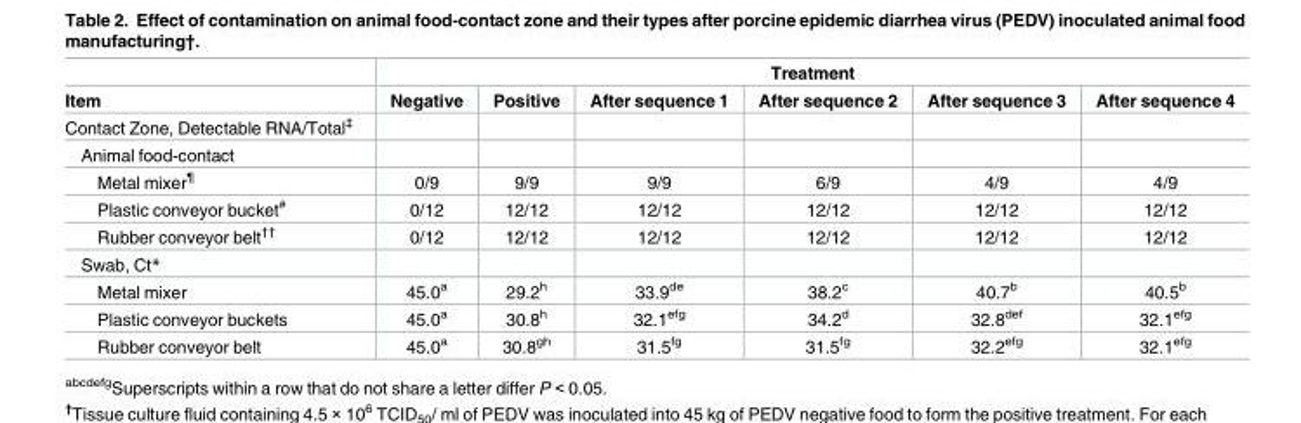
<table><thead><tr><td rowspan="2">Item</td><td colspan="6">Treatment</td></tr><tr><td>Negative</td><td>Positive</td><td>After sequence 1</td><td>After sequence 2</td><td>After sequence 3</td><td>After sequence 4</td></tr></thead><tbody><tr><td colspan="7">Contact Zone, Detectable RNA/Total<sup>‡</sup></td></tr><tr><td colspan="7">Animal food-contact</td></tr><tr><td>Metal mixer<sup>¶</sup></td><td>0/9</td><td>9/9</td><td>9/9</td><td>6/9</td><td>4/9</td><td>4/9</td></tr><tr><td>Plastic conveyor bucket<sup>#</sup></td><td>0/12</td><td>12/12</td><td>12/12</td><td>12/12</td><td>12/12</td><td>12/12</td></tr><tr><td>Rubber conveyor belt<sup>††</sup></td><td>0/12</td><td>12/12</td><td>12/12</td><td>12/12</td><td>12/12</td><td>12/12</td></tr><tr><td colspan="7">Swab, Ct*</td></tr><tr><td>Metal mixer</td><td>45.0<sup>a</sup></td><td>29.2<sup>h</sup></td><td>33.9<sup>de</sup></td><td>38.2<sup>c</sup></td><td>40.7<sup>b</sup></td><td>40.5<sup>b</sup></td></tr><tr><td>Plastic conveyor buckets</td><td>45.0<sup>a</sup></td><td>30.8<sup>h</sup></td><td>32.1<sup>efg</sup></td><td>34.2<sup>d</sup></td><td>32.8<sup>def</sup></td><td>32.1<sup>efg</sup></td></tr><tr><td>Rubber conveyor belt</td><td>45.0<sup>a</sup></td><td>30.8<sup>gh</sup></td><td>31.5<sup>fg</sup></td><td>31.5<sup>fg</sup></td><td>32.2<sup>efg</sup></td><td>32.1<sup>efg</sup></td></tr></tbody></table>